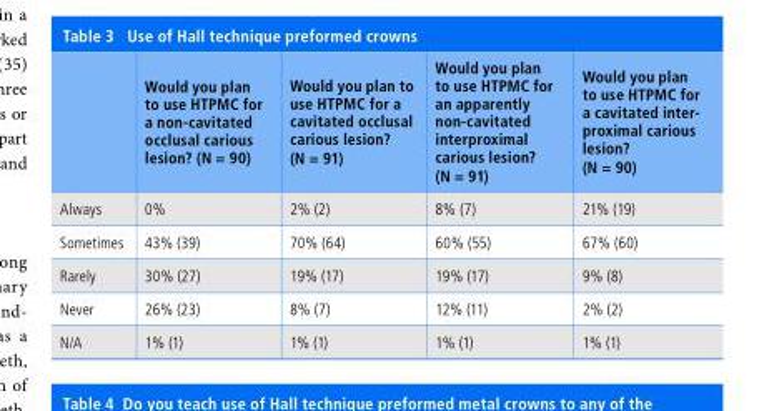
<table><thead><tr><td></td><td>Would you plan to use HTPMC for a non-cavitated occlusal carious lesion? (N = 90)</td><td>Would you plan to use HTPMC for a cavitated occlusal carious lesion? (N = 91)</td><td>Would you plan to use HTPMC for an apparently non-cavitated interproximal carious lesion? (N = 91)</td><td>Would you plan to use HTPMC for a cavitated inter- proximal carious lesion? (N = 90)</td></tr></thead><tbody><tr><td>Always</td><td>0%</td><td>2% (2)</td><td>8% (7)</td><td>21% (19)</td></tr><tr><td>Sometimes</td><td>43% (39)</td><td>70% (64)</td><td>60% (55)</td><td>67% (60)</td></tr><tr><td>Rarely</td><td>30% (27)</td><td>19% (17)</td><td>19% (17)</td><td>9% (8)</td></tr><tr><td>Never</td><td>26% (23)</td><td>8% (7)</td><td>12% (11)</td><td>2% (2)</td></tr><tr><td>N/A</td><td>1% (1)</td><td>1% (1)</td><td>1% (1)</td><td>1% (1)</td></tr></tbody></table>